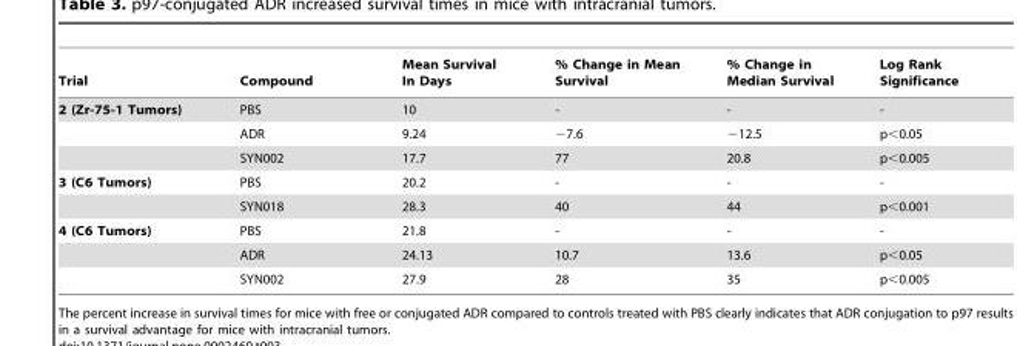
<table><thead><tr><td>Trial</td><td>Compound</td><td>Mean Survival In Days</td><td>% Change in Mean Survival</td><td>% Change in Median Survival</td><td>Log Rank Significance</td></tr></thead><tbody><tr><td rowspan="3">2 (Zr-75-1 Tumors)</td><td>PBS</td><td>10</td><td>-</td><td>-</td><td>-</td></tr><tr><td>ADR</td><td>9.24</td><td>−7.6</td><td>−12.5</td><td>p&lt;0.05</td></tr><tr><td>SYN002</td><td>17.7</td><td>77</td><td>20.8</td><td>p&lt;0.005</td></tr><tr><td rowspan="2">3 (C6 Tumors)</td><td>PBS</td><td>20.2</td><td>-</td><td>-</td><td>-</td></tr><tr><td>SYN018</td><td>28.3</td><td>40</td><td>44</td><td>p&lt;0.001</td></tr><tr><td rowspan="3">4 (C6 Tumors)</td><td>PBS</td><td>21.8</td><td>-</td><td>-</td><td>-</td></tr><tr><td>ADR</td><td>24.13</td><td>10.7</td><td>13.6</td><td>p&lt;0.05</td></tr><tr><td>SYN002</td><td>27.9</td><td>28</td><td>35</td><td>p&lt;0.005</td></tr></tbody></table>